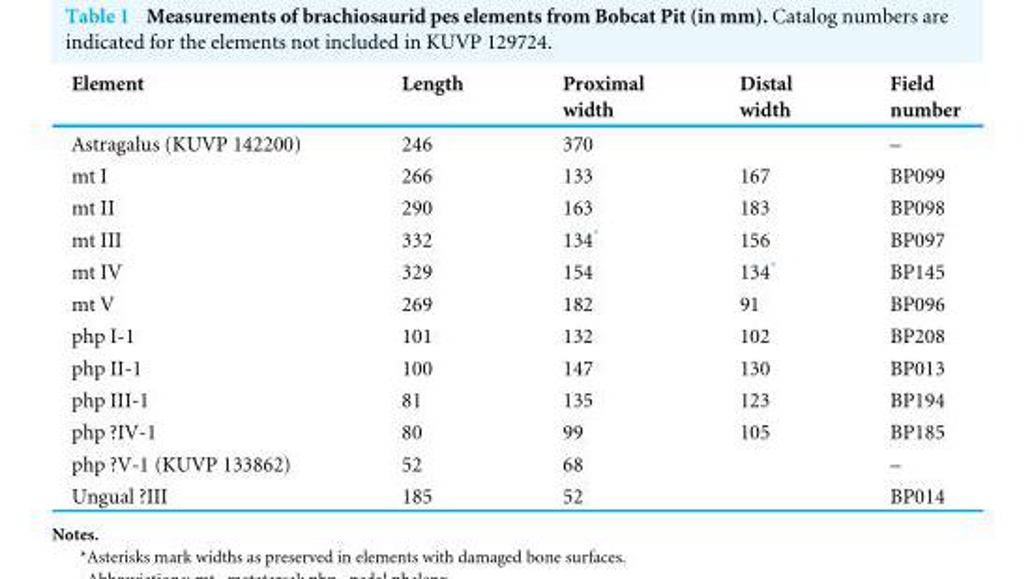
<table><thead><tr><td>Element</td><td>Length</td><td>Proximal width</td><td>Distal width</td><td>Field number</td></tr></thead><tbody><tr><td>Astragalus (KUVP 142200)</td><td>246</td><td>370</td><td></td><td>–</td></tr><tr><td>mt I</td><td>266</td><td>133</td><td>167</td><td>BP099</td></tr><tr><td>mt II</td><td>290</td><td>163</td><td>183</td><td>BP098</td></tr><tr><td>mt III</td><td>332</td><td>134*</td><td>156</td><td>BP097</td></tr><tr><td>mt IV</td><td>329</td><td>154</td><td>134*</td><td>BP145</td></tr><tr><td>mt V</td><td>269</td><td>182</td><td>91</td><td>BP096</td></tr><tr><td>php I-1</td><td>101</td><td>132</td><td>102</td><td>BP208</td></tr><tr><td>php II-1</td><td>100</td><td>147</td><td>130</td><td>BP013</td></tr><tr><td>php III-1</td><td>81</td><td>135</td><td>123</td><td>BP194</td></tr><tr><td>php ?IV-1</td><td>80</td><td>99</td><td>105</td><td>BP185</td></tr><tr><td>php ?V-1 (KUVP 133862)</td><td>52</td><td>68</td><td></td><td>–</td></tr><tr><td>Ungual ?III</td><td>185</td><td>52</td><td></td><td>BP014</td></tr></tbody></table>